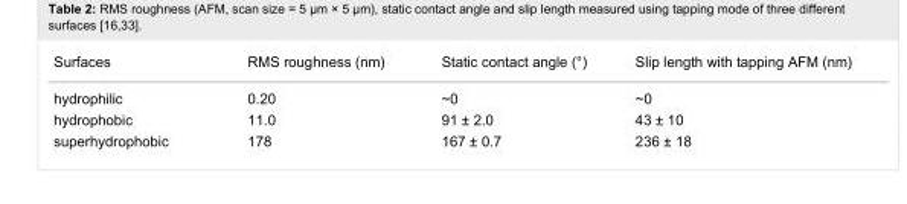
<table><tbody><tr><td>Surfaces</td><td>RMS roughness (nm)</td><td>Static contact angle (°)</td><td>Slip length with tapping AFM (nm)</td></tr><tr><td>hydrophilic</td><td>0.20</td><td>~0</td><td>~0</td></tr><tr><td>hydrophobic</td><td>11.0</td><td>91 ± 2.0</td><td>43 ± 10</td></tr><tr><td>superhydrophobic</td><td>178</td><td>167 ± 0.7</td><td>236 ± 18</td></tr></tbody></table>